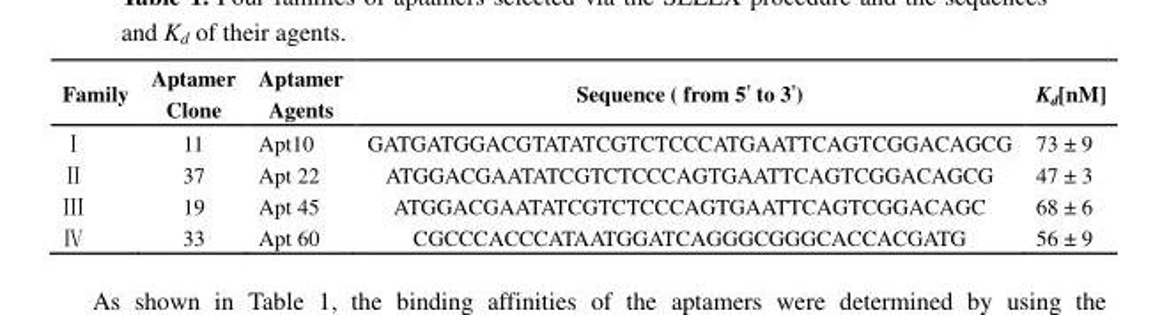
<table><thead><tr><td>Family</td><td>Aptamer Clone</td><td>Aptamer Agents</td><td>Sequence ( from 5&#x27; to 3&#x27;)</td><td>K<sub>d</sub>[nM]</td></tr></thead><tbody><tr><td>Ⅰ</td><td>11</td><td>Apt10</td><td>GATGATGGACGTATATCGTCTCCCATGAATTCAGTCGGACAGCG</td><td>73 ± 9</td></tr><tr><td>Ⅱ</td><td>37</td><td>Apt 22</td><td>ATGGACGAATATCGTCTCCCAGTGAATTCAGTCGGACAGCG</td><td>47 ± 3</td></tr><tr><td>Ⅲ</td><td>19</td><td>Apt 45</td><td>ATGGACGAATATCGTCTCCCAGTGAATTCAGTCGGACAGC</td><td>68 ± 6</td></tr><tr><td>Ⅳ</td><td>33</td><td>Apt 60</td><td>CGCCCACCCATAATGGATCAGGGCGGGCACCACGATG</td><td>56 ± 9</td></tr></tbody></table>